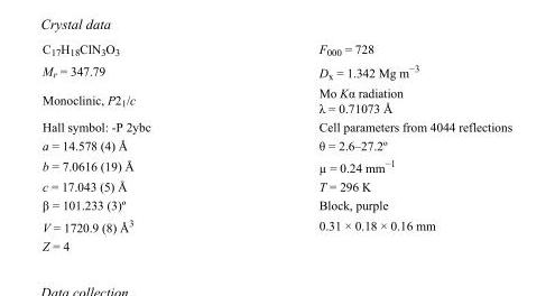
<table><tbody><tr><td>C<sub>17</sub>H<sub>18</sub>ClN<sub>3</sub>O<sub>3</sub></td><td>F000 = 728</td></tr><tr><td>M<sub>r</sub> = 347.79</td><td>D<sub>x</sub> = 1.342 Mg m<sup>−3</sup></td></tr><tr><td>Monoclinic, P2<sub>1</sub>/c</td><td>Mo Kα radiation λ = 0.71073 Å</td></tr><tr><td>Hall symbol: -P 2ybc</td><td>Cell parameters from 4044 reflections</td></tr><tr><td>a = 14.578 (4) Å</td><td>θ = 2.6–27.2º</td></tr><tr><td>b = 7.0616 (19) Å</td><td>µ = 0.24 mm<sup>−1</sup></td></tr><tr><td>c = 17.043 (5) Å</td><td>T = 296 K</td></tr><tr><td>β = 101.233 (3)º</td><td>Block, purple</td></tr><tr><td>V = 1720.9 (8) Å<sup>3</sup></td><td>0.31 × 0.18 × 0.16 mm</td></tr><tr><td>Z = 4</td><td></td></tr></tbody></table>